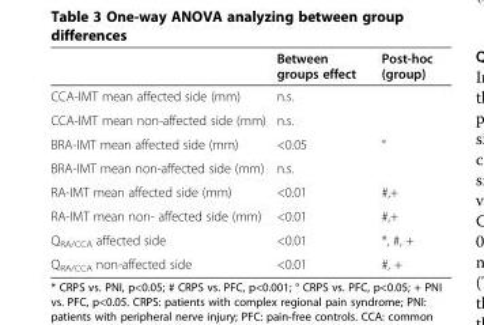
<table><thead><tr><td></td><td>Between groups effect</td><td>Post-hoc (group)</td></tr></thead><tbody><tr><td>CCA-IMT mean affected side (mm)</td><td>n.s.</td><td></td></tr><tr><td>CCA-IMT mean non-affected side (mm)</td><td>n.s.</td><td></td></tr><tr><td>BRA-IMT mean affected side (mm)</td><td>&lt;0.05</td><td>°</td></tr><tr><td>BRA-IMT mean non-affected side (mm)</td><td>n.s.</td><td></td></tr><tr><td>RA-IMT mean affected side (mm)</td><td>&lt;0.01</td><td>#,+</td></tr><tr><td>RA-IMT mean non- affected side (mm)</td><td>&lt;0.01</td><td>#,+</td></tr><tr><td>Q<sub>RA/CCA</sub> affected side</td><td>&lt;0.01</td><td>*, #, +</td></tr><tr><td>Q<sub>RA/CCA</sub> non-affected side</td><td>&lt;0.01</td><td>#, +</td></tr></tbody></table>